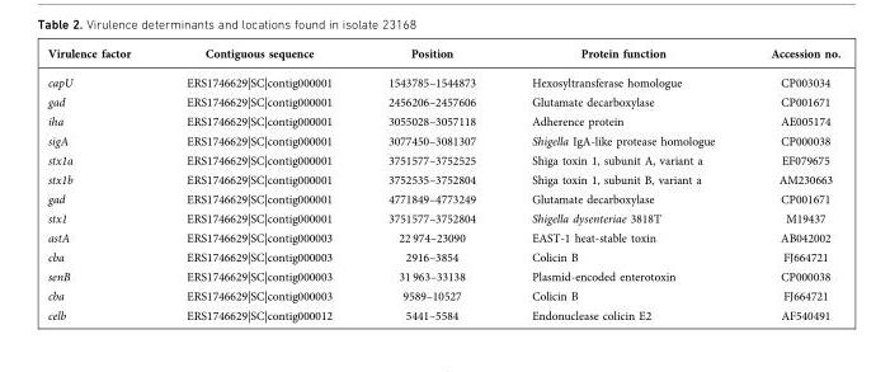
<table><thead><tr><td>Virulence factor</td><td>Contiguous sequence</td><td>Position</td><td>Protein function</td><td>Accession no.</td></tr></thead><tbody><tr><td>capU</td><td>ERS1746629|SC|contig000001</td><td>1543785–1544873</td><td>Hexosyltransferase homologue</td><td>CP003034</td></tr><tr><td>gad</td><td>ERS1746629|SC|contig000001</td><td>2456206–2457606</td><td>Glutamate decarboxylase</td><td>CP001671</td></tr><tr><td>iha</td><td>ERS1746629|SC|contig000001</td><td>3055028–3057118</td><td>Adherence protein</td><td>AE005174</td></tr><tr><td>sigA</td><td>ERS1746629|SC|contig000001</td><td>3077450–3081307</td><td>Shigella IgA-like protease homologue</td><td>CP000038</td></tr><tr><td>stx1a</td><td>ERS1746629|SC|contig000001</td><td>3751577–3752525</td><td>Shiga toxin 1, subunit A, variant a</td><td>EF079675</td></tr><tr><td>stx1b</td><td>ERS1746629|SC|contig000001</td><td>3752535–3752804</td><td>Shiga toxin 1, subunit B, variant a</td><td>AM230663</td></tr><tr><td>gad</td><td>ERS1746629|SC|contig000001</td><td>4771849–4773249</td><td>Glutamate decarboxylase</td><td>CP001671</td></tr><tr><td>stx1</td><td>ERS1746629|SC|contig000001</td><td>3751577–3752804</td><td>Shigella dysenteriae 3818T</td><td>M19437</td></tr><tr><td>astA</td><td>ERS1746629|SC|contig000003</td><td>22 974–23090</td><td>EAST-1 heat-stable toxin</td><td>AB042002</td></tr><tr><td>cba</td><td>ERS1746629|SC|contig000003</td><td>2916–3854</td><td>Colicin B</td><td>FJ664721</td></tr><tr><td>senB</td><td>ERS1746629|SC|contig000003</td><td>31 963–33138</td><td>Plasmid-encoded enterotoxin</td><td>CP000038</td></tr><tr><td>cba</td><td>ERS1746629|SC|contig000003</td><td>9589–10527</td><td>Colicin B</td><td>FJ664721</td></tr><tr><td>celb</td><td>ERS1746629|SC|contig000012</td><td>5441–5584</td><td>Endonuclease colicin E2</td><td>AF540491</td></tr></tbody></table>